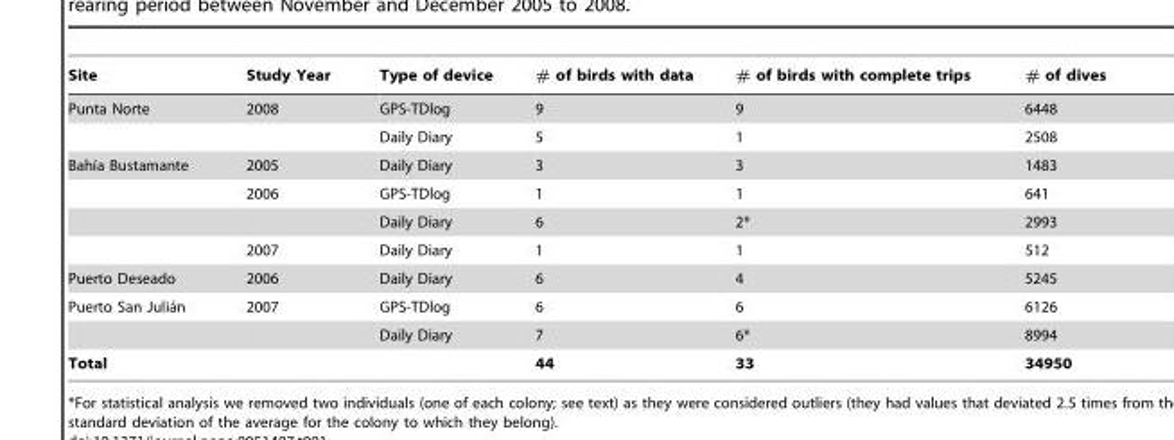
<table><thead><tr><td>Site</td><td>Study Year</td><td>Type of device</td><td># of birds with data</td><td># of birds with complete trips</td><td># of dives</td></tr></thead><tbody><tr><td rowspan="2">Punta Norte</td><td>2008</td><td>GPS-TDlog</td><td>9</td><td>9</td><td>6448</td></tr><tr><td></td><td>Daily Diary</td><td>5</td><td>1</td><td>2508</td></tr><tr><td rowspan="4">Bahı´a Bustamante</td><td>2005</td><td>Daily Diary</td><td>3</td><td>3</td><td>1483</td></tr><tr><td>2006</td><td>GPS-TDlog</td><td>1</td><td>1</td><td>641</td></tr><tr><td></td><td>Daily Diary</td><td>6</td><td>2*</td><td>2993</td></tr><tr><td>2007</td><td>Daily Diary</td><td>1</td><td>1</td><td>512</td></tr><tr><td>Puerto Deseado</td><td>2006</td><td>Daily Diary</td><td>6</td><td>4</td><td>5245</td></tr><tr><td rowspan="2">Puerto San Julia´n</td><td>2007</td><td>GPS-TDlog</td><td>6</td><td>6</td><td>6126</td></tr><tr><td></td><td>Daily Diary</td><td>7</td><td>6*</td><td>8994</td></tr><tr><td>Total</td><td></td><td></td><td>44</td><td>33</td><td>34950</td></tr></tbody></table>